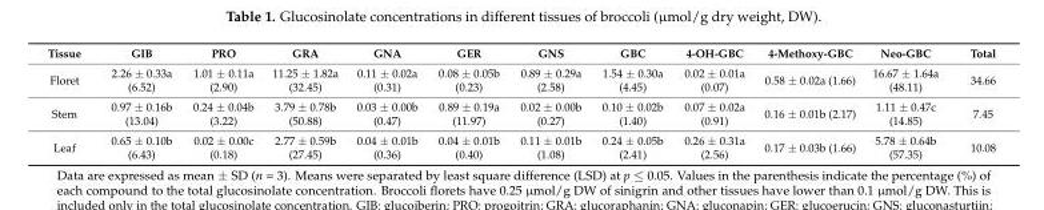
<table><thead><tr><td>Tissue</td><td>GIB</td><td>PRO</td><td>GRA</td><td>GNA</td><td>GER</td><td>GNS</td><td>GBC</td><td>4-OH-GBC</td><td>4-Methoxy-GBC</td><td>Neo-GBC</td><td>Total</td></tr></thead><tbody><tr><td>Floret</td><td>2.26 ± 0.33a (6.52)</td><td>1.01 ± 0.11a (2.90)</td><td>11.25 ± 1.82a (32.45)</td><td>0.11 ± 0.02a (0.31)</td><td>0.08 ± 0.05b (0.23)</td><td>0.89 ± 0.29a (2.58)</td><td>1.54 ± 0.30a (4.45)</td><td>0.02 ± 0.01a (0.07)</td><td>0.58 ± 0.02a (1.66)</td><td>16.67 ± 1.64a (48.11)</td><td>34.66</td></tr><tr><td>Stem</td><td>0.97 ± 0.16b (13.04)</td><td>0.24 ± 0.04b (3.22)</td><td>3.79 ± 0.78b (50.88)</td><td>0.03 ± 0.00b (0.47)</td><td>0.89 ± 0.19a (11.97)</td><td>0.02 ± 0.00b (0.27)</td><td>0.10 ± 0.02b (1.40)</td><td>0.07 ± 0.02a (0.91)</td><td>0.16 ± 0.01b (2.17)</td><td>1.11 ± 0.47c (14.85)</td><td>7.45</td></tr><tr><td>Leaf</td><td>0.65 ± 0.10b (6.43)</td><td>0.02 ± 0.00c (0.18)</td><td>2.77 ± 0.59b (27.45)</td><td>0.04 ± 0.01b (0.36)</td><td>0.04 ± 0.01b (0.40)</td><td>0.11 ± 0.01b (1.08)</td><td>0.24 ± 0.05b (2.41)</td><td>0.26 ± 0.31a (2.56)</td><td>0.17 ± 0.03b (1.66)</td><td>5.78 ± 0.64b (57.35)</td><td>10.08</td></tr></tbody></table>